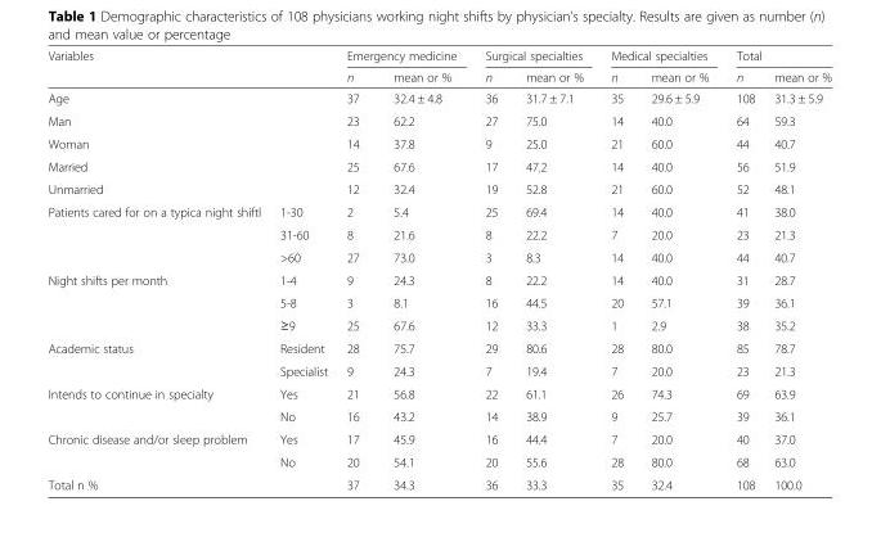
<table><thead><tr><td rowspan="2" colspan="2">Variables</td><td colspan="2">Emergency medicine</td><td colspan="2">Surgical specialties</td><td colspan="2">Medical specialties</td><td colspan="2">Total</td></tr><tr><td>n</td><td>mean or %</td><td>n</td><td>mean or %</td><td>n</td><td>mean or %</td><td>n</td><td>mean or %</td></tr></thead><tbody><tr><td colspan="2">Age</td><td>37</td><td>32.4 ± 4.8</td><td>36</td><td>31.7 ± 7.1</td><td>35</td><td>29.6 ± 5.9</td><td>108</td><td>31.3 ± 5.9</td></tr><tr><td colspan="2">Man</td><td>23</td><td>62.2</td><td>27</td><td>75.0</td><td>14</td><td>40.0</td><td>64</td><td>59.3</td></tr><tr><td colspan="2">Woman</td><td>14</td><td>37.8</td><td>9</td><td>25.0</td><td>21</td><td>60.0</td><td>44</td><td>40.7</td></tr><tr><td colspan="2">Married</td><td>25</td><td>67.6</td><td>17</td><td>47.2</td><td>14</td><td>40.0</td><td>56</td><td>51.9</td></tr><tr><td colspan="2">Unmarried</td><td>12</td><td>32.4</td><td>19</td><td>52.8</td><td>21</td><td>60.0</td><td>52</td><td>48.1</td></tr><tr><td rowspan="3">Patients cared for on a typica night shiftl</td><td>1-30</td><td>2</td><td>5.4</td><td>25</td><td>69.4</td><td>14</td><td>40.0</td><td>41</td><td>38.0</td></tr><tr><td>31-60</td><td>8</td><td>21.6</td><td>8</td><td>22.2</td><td>7</td><td>20.0</td><td>23</td><td>21.3</td></tr><tr><td>&gt;60</td><td>27</td><td>73.0</td><td>3</td><td>8.3</td><td>14</td><td>40.0</td><td>44</td><td>40.7</td></tr><tr><td rowspan="3">Night shifts per month</td><td>1-4</td><td>9</td><td>24.3</td><td>8</td><td>22.2</td><td>14</td><td>40.0</td><td>31</td><td>28.7</td></tr><tr><td>5-8</td><td>3</td><td>8.1</td><td>16</td><td>44.5</td><td>20</td><td>57.1</td><td>39</td><td>36.1</td></tr><tr><td>≥9</td><td>25</td><td>67.6</td><td>12</td><td>33.3</td><td>1</td><td>2.9</td><td>38</td><td>35.2</td></tr><tr><td rowspan="2">Academic status</td><td>Resident</td><td>28</td><td>75.7</td><td>29</td><td>80.6</td><td>28</td><td>80.0</td><td>85</td><td>78.7</td></tr><tr><td>Specialist</td><td>9</td><td>24.3</td><td>7</td><td>19.4</td><td>7</td><td>20.0</td><td>23</td><td>21.3</td></tr><tr><td rowspan="2">Intends to continue in specialty</td><td>Yes</td><td>21</td><td>56.8</td><td>22</td><td>61.1</td><td>26</td><td>74.3</td><td>69</td><td>63.9</td></tr><tr><td>No</td><td>16</td><td>43.2</td><td>14</td><td>38.9</td><td>9</td><td>25.7</td><td>39</td><td>36.1</td></tr><tr><td rowspan="2">Chronic disease and/or sleep problem</td><td>Yes</td><td>17</td><td>45.9</td><td>16</td><td>44.4</td><td>7</td><td>20.0</td><td>40</td><td>37.0</td></tr><tr><td>No</td><td>20</td><td>54.1</td><td>20</td><td>55.6</td><td>28</td><td>80.0</td><td>68</td><td>63.0</td></tr><tr><td colspan="2">Total n %</td><td>37</td><td>34.3</td><td>36</td><td>33.3</td><td>35</td><td>32.4</td><td>108</td><td>100.0</td></tr></tbody></table>